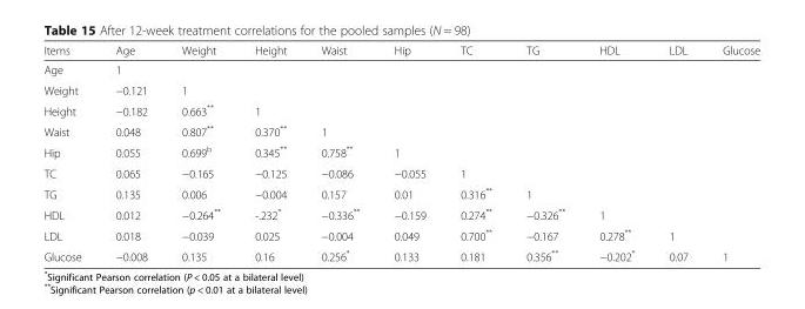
<table><thead><tr><td>Items</td><td>Age</td><td>Weight</td><td>Height</td><td>Waist</td><td>Hip</td><td>TC</td><td>TG</td><td>HDL</td><td>LDL</td><td>Glucose</td></tr></thead><tbody><tr><td>Age</td><td>1</td><td></td><td></td><td></td><td></td><td></td><td></td><td></td><td></td><td></td></tr><tr><td>Weight</td><td>−0.121</td><td>1</td><td></td><td></td><td></td><td></td><td></td><td></td><td></td><td></td></tr><tr><td>Height</td><td>−0.182</td><td>0.663**</td><td>1</td><td></td><td></td><td></td><td></td><td></td><td></td><td></td></tr><tr><td>Waist</td><td>0.048</td><td>0.807**</td><td>0.370**</td><td>1</td><td></td><td></td><td></td><td></td><td></td><td></td></tr><tr><td>Hip</td><td>0.055</td><td>0.699<sup>b</sup></td><td>0.345**</td><td>0.758**</td><td>1</td><td></td><td></td><td></td><td></td><td></td></tr><tr><td>TC</td><td>0.065</td><td>−0.165</td><td>−0.125</td><td>−0.086</td><td>−0.055</td><td>1</td><td></td><td></td><td></td><td></td></tr><tr><td>TG</td><td>0.135</td><td>0.006</td><td>−0.004</td><td>0.157</td><td>0.01</td><td>0.316**</td><td>1</td><td></td><td></td><td></td></tr><tr><td>HDL</td><td>0.012</td><td>−0.264**</td><td>-.232*</td><td>−0.336**</td><td>−0.159</td><td>0.274**</td><td>−0.326**</td><td>1</td><td></td><td></td></tr><tr><td>LDL</td><td>0.018</td><td>−0.039</td><td>0.025</td><td>−0.004</td><td>0.049</td><td>0.700**</td><td>−0.167</td><td>0.278**</td><td>1</td><td></td></tr><tr><td>Glucose</td><td>−0.008</td><td>0.135</td><td>0.16</td><td>0.256*</td><td>0.133</td><td>0.181</td><td>0.356**</td><td>−0.202*</td><td>0.07</td><td>1</td></tr></tbody></table>